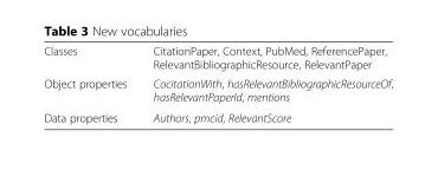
<table><thead><tr><td>Classes</td><td>CitationPaper, Context, PubMed, ReferencePaper, RelevantBibliographicResource, RelevantPaper</td></tr></thead><tbody><tr><td>Object properties</td><td>CocitationWith, hasRelevantBibliographicResourceOf, hasRelevantPaperId, mentions</td></tr><tr><td>Data properties</td><td>Authors, pmcid, RelevantScore</td></tr></tbody></table>